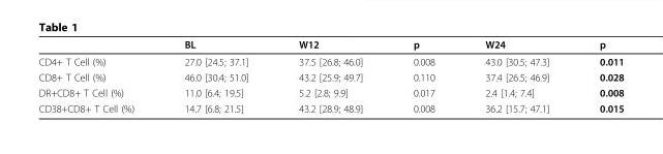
<table><thead><tr><td></td><td>BL</td><td>W12</td><td>p</td><td>W24</td><td>p</td></tr></thead><tbody><tr><td>CD4+ T Cell (%)</td><td>27.0 [24.5; 37.1]</td><td>37.5 [26.8; 46.0]</td><td>0.008</td><td>43.0 [30.5; 47.3]</td><td>0.011</td></tr><tr><td>CD8+ T Cell (%)</td><td>46.0 [30.4; 51.0]</td><td>43.2 [25.9; 49.7]</td><td>0.110</td><td>37.4 [26.5; 46.9]</td><td>0.028</td></tr><tr><td>DR+CD8+ T Cell (%)</td><td>11.0 [6.4; 19.5]</td><td>5.2 [2.8; 9.9]</td><td>0.017</td><td>2.4 [1.4; 7.4]</td><td>0.008</td></tr><tr><td>CD38+CD8+ T Cell (%)</td><td>14.7 [6.8; 21.5]</td><td>43.2 [28.9; 48.9]</td><td>0.008</td><td>36.2 [15.7; 47.1]</td><td>0.015</td></tr></tbody></table>